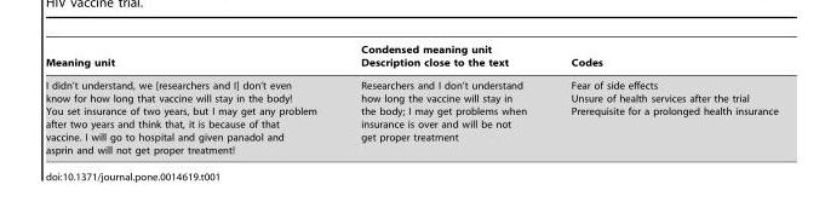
<table><thead><tr><td>Meaning unit</td><td>Condensed meaning unit Description close to the text</td><td>Codes</td></tr></thead><tbody><tr><td>I didn’t understand, we [researchers and I] don’t even know for how long that vaccine will stay in the body! You set insurance of two years, but I may get any problem after two years and think that, it is because of that vaccine. I will go to hospital and given panadol and asprin and will not get proper treatment!</td><td>Researchers and I don’t understand how long the vaccine will stay in the body; I may get problems when insurance is over and will be not get proper treatment</td><td>Fear of side effects Unsure of health services after the trial Prerequisite for a prolonged health insurance</td></tr></tbody></table>